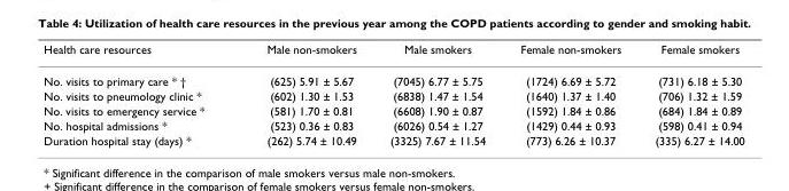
<table><thead><tr><td>Health care resources</td><td>Male non-smokers</td><td>Male smokers</td><td>Female non-smokers</td><td>Female smokers</td></tr></thead><tbody><tr><td>No. visits to primary care * †</td><td>(625) 5.91 ± 5.67</td><td>(7045) 6.77 ± 5.75</td><td>(1724) 6.69 ± 5.72</td><td>(731) 6.18 ± 5.30</td></tr><tr><td>No. visits to pneumology clinic *</td><td>(602) 1.30 ± 1.53</td><td>(6838) 1.47 ± 1.54</td><td>(1640) 1.37 ± 1.40</td><td>(706) 1.32 ± 1.59</td></tr><tr><td>No. visits to emergency service *</td><td>(581) 1.70 ± 0.81</td><td>(6608) 1.90 ± 0.87</td><td>(1592) 1.84 ± 0.86</td><td>(684) 1.84 ± 0.89</td></tr><tr><td>No. hospital admissions *</td><td>(523) 0.36 ± 0.83</td><td>(6026) 0.54 ± 1.27</td><td>(1429) 0.44 ± 0.93</td><td>(598) 0.41 ± 0.94</td></tr><tr><td>Duration hospital stay (days) *</td><td>(262) 5.74 ± 10.49</td><td>(3325) 7.67 ± 11.54</td><td>(773) 6.26 ± 10.37</td><td>(335) 6.27 ± 14.00</td></tr></tbody></table>